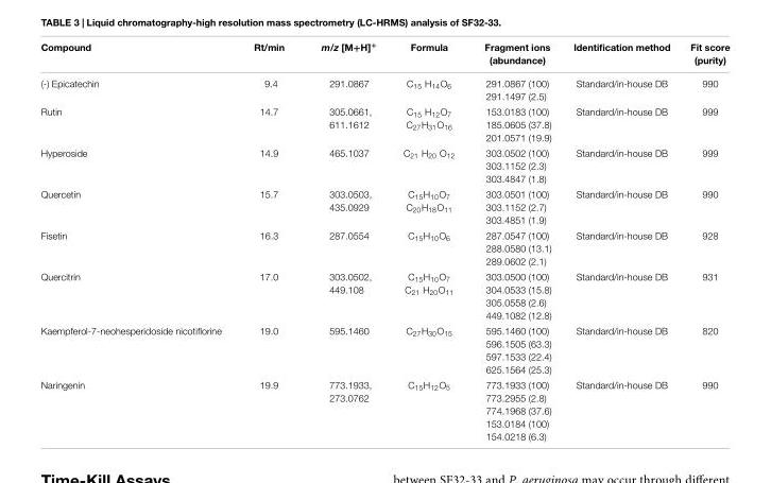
<table><thead><tr><td>Compound</td><td>Rt/min</td><td>m/z [M+H]<sup>+</sup></td><td>Formula</td><td>Fragment ions (abundance)</td><td>Identification method</td><td>Fit score (purity)</td></tr></thead><tbody><tr><td>(-) Epicatechin</td><td>9.4</td><td>291.0867</td><td>C<sub>15</sub> H<sub>14</sub>O<sub>6</sub></td><td>291.0867 (100) 291.1497 (2.5)</td><td>Standard/in-house DB</td><td>990</td></tr><tr><td>Rutin</td><td>14.7</td><td>305.0661, 611.1612</td><td>C<sub>15</sub> H<sub>12</sub>O<sub>7</sub> C<sub>27</sub>H<sub>31</sub>O<sub>16</sub></td><td>153.0183 (100) 185.0605 (37.8) 201.0571 (19.9)</td><td>Standard/in-house DB</td><td>999</td></tr><tr><td>Hyperoside</td><td>14.9</td><td>465.1037</td><td>C<sub>21</sub> H<sub>20</sub> O<sub>12</sub></td><td>303.0502 (100) 303.1152 (2.3) 303.4847 (1.8)</td><td>Standard/in-house DB</td><td>999</td></tr><tr><td>Quercetin</td><td>15.7</td><td>303.0503, 435.0929</td><td>C<sub>15</sub>H<sub>10</sub>O<sub>7</sub> C<sub>20</sub>H<sub>18</sub>O<sub>11</sub></td><td>303.0501 (100) 303.1152 (2.7) 303.4851 (1.9)</td><td>Standard/in-house DB</td><td>990</td></tr><tr><td>Fisetin</td><td>16.3</td><td>287.0554</td><td>C<sub>15</sub>H<sub>10</sub>O<sub>6</sub></td><td>287.0547 (100) 288.0580 (13.1) 289.0602 (2.1)</td><td>Standard/in-house DB</td><td>928</td></tr><tr><td>Quercitrin</td><td>17.0</td><td>303.0502, 449.108</td><td>C<sub>15</sub>H<sub>10</sub>O<sub>7</sub> C<sub>21</sub> H<sub>20</sub>O<sub>11</sub></td><td>303.0500 (100) 304.0533 (15.8) 305.0558 (2.6) 449.1082 (12.8)</td><td>Standard/in-house DB</td><td>931</td></tr><tr><td>Kaempferol-7-neohesperidoside nicotiflorine</td><td>19.0</td><td>595.1460</td><td>C<sub>27</sub>H<sub>30</sub>O<sub>15</sub></td><td>595.1460 (100) 596.1505 (63.3) 597.1533 (22.4) 625.1564 (25.3)</td><td>Standard/in-house DB</td><td>820</td></tr><tr><td>Naringenin</td><td>19.9</td><td>773.1933, 273.0762</td><td>C<sub>15</sub>H<sub>12</sub>O<sub>5</sub></td><td>773.1933 (100) 773.2955 (2.8) 774.1968 (37.6) 153.0184 (100) 154.0218 (6.3)</td><td>Standard/in-house DB</td><td>990</td></tr></tbody></table>